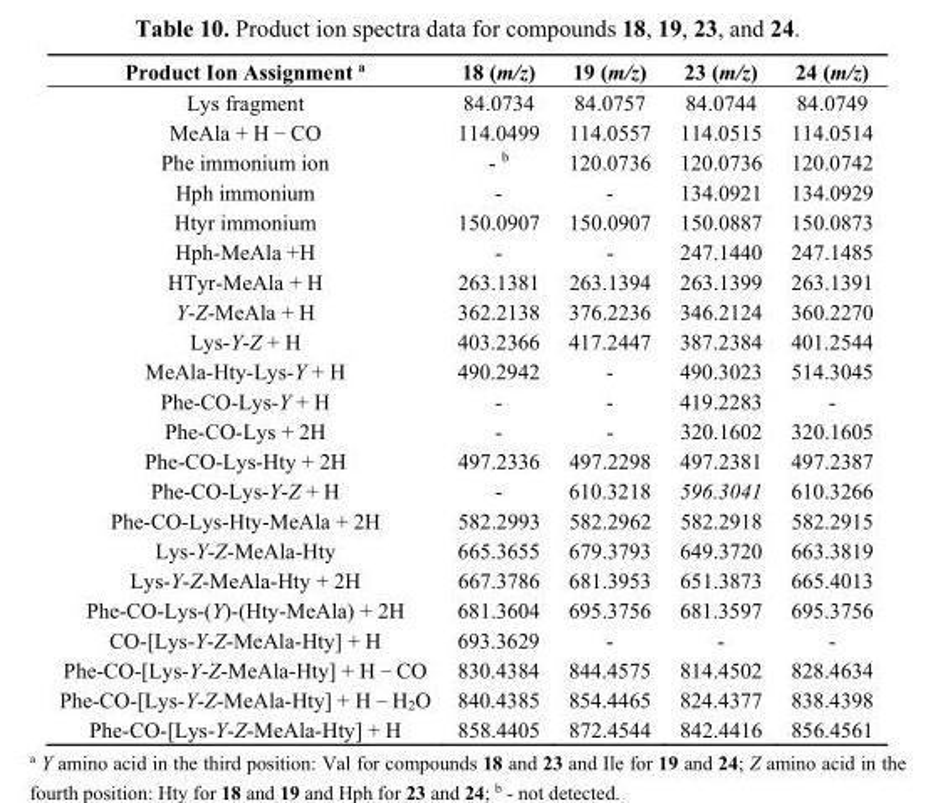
<table><thead><tr><td>Product Ion Assignment <sup>a</sup></td><td>18 (m/z)</td><td>19 (m/z)</td><td>23 (m/z)</td><td>24 (m/z)</td></tr></thead><tbody><tr><td>Lys fragment</td><td>84.0734</td><td>84.0757</td><td>84.0744</td><td>84.0749</td></tr><tr><td>MeAla + H − CO</td><td>114.0499</td><td>114.0557</td><td>114.0515</td><td>114.0514</td></tr><tr><td>Phe immonium ion</td><td>- <sup>b</sup></td><td>120.0736</td><td>120.0736</td><td>120.0742</td></tr><tr><td>Hph immonium</td><td>-</td><td>-</td><td>134.0921</td><td>134.0929</td></tr><tr><td>Htyr immonium</td><td>150.0907</td><td>150.0907</td><td>150.0887</td><td>150.0873</td></tr><tr><td>Hph-MeAla +H</td><td>-</td><td>-</td><td>247.1440</td><td>247.1485</td></tr><tr><td>HTyr-MeAla + H</td><td>263.1381</td><td>263.1394</td><td>263.1399</td><td>263.1391</td></tr><tr><td>Y-Z-MeAla + H</td><td>362.2138</td><td>376.2236</td><td>346.2124</td><td>360.2270</td></tr><tr><td>Lys-Y-Z + H</td><td>403.2366</td><td>417.2447</td><td>387.2384</td><td>401.2544</td></tr><tr><td>MeAla-Hty-Lys-Y + H</td><td>490.2942</td><td>-</td><td>490.3023</td><td>514.3045</td></tr><tr><td>Phe-CO-Lys-Y + H</td><td>-</td><td>-</td><td>419.2283</td><td>-</td></tr><tr><td>Phe-CO-Lys + 2H</td><td>-</td><td>-</td><td>320.1602</td><td>320.1605</td></tr><tr><td>Phe-CO-Lys-Hty + 2H</td><td>497.2336</td><td>497.2298</td><td>497.2381</td><td>497.2387</td></tr><tr><td>Phe-CO-Lys-Y-Z + H</td><td>-</td><td>610.3218</td><td>596.3041</td><td>610.3266</td></tr><tr><td>Phe-CO-Lys-Hty-MeAla + 2H</td><td>582.2993</td><td>582.2962</td><td>582.2918</td><td>582.2915</td></tr><tr><td>Lys-Y-Z-MeAla-Hty</td><td>665.3655</td><td>679.3793</td><td>649.3720</td><td>663.3819</td></tr><tr><td>Lys-Y-Z-MeAla-Hty + 2H</td><td>667.3786</td><td>681.3953</td><td>651.3873</td><td>665.4013</td></tr><tr><td>Phe-CO-Lys-(Y)-(Hty-MeAla) + 2H</td><td>681.3604</td><td>695.3756</td><td>681.3597</td><td>695.3756</td></tr><tr><td>CO-[Lys-Y-Z-MeAla-Hty] + H</td><td>693.3629</td><td>-</td><td>-</td><td>-</td></tr><tr><td>Phe-CO-[Lys-Y-Z-MeAla-Hty] + H − CO</td><td>830.4384</td><td>844.4575</td><td>814.4502</td><td>828.4634</td></tr><tr><td>Phe-CO-[Lys-Y-Z-MeAla-Hty] + H − H<sub>2</sub>O</td><td>840.4385</td><td>854.4465</td><td>824.4377</td><td>838.4398</td></tr><tr><td>Phe-CO-[Lys-Y-Z-MeAla-Hty] + H</td><td>858.4405</td><td>872.4544</td><td>842.4416</td><td>856.4561</td></tr></tbody></table>